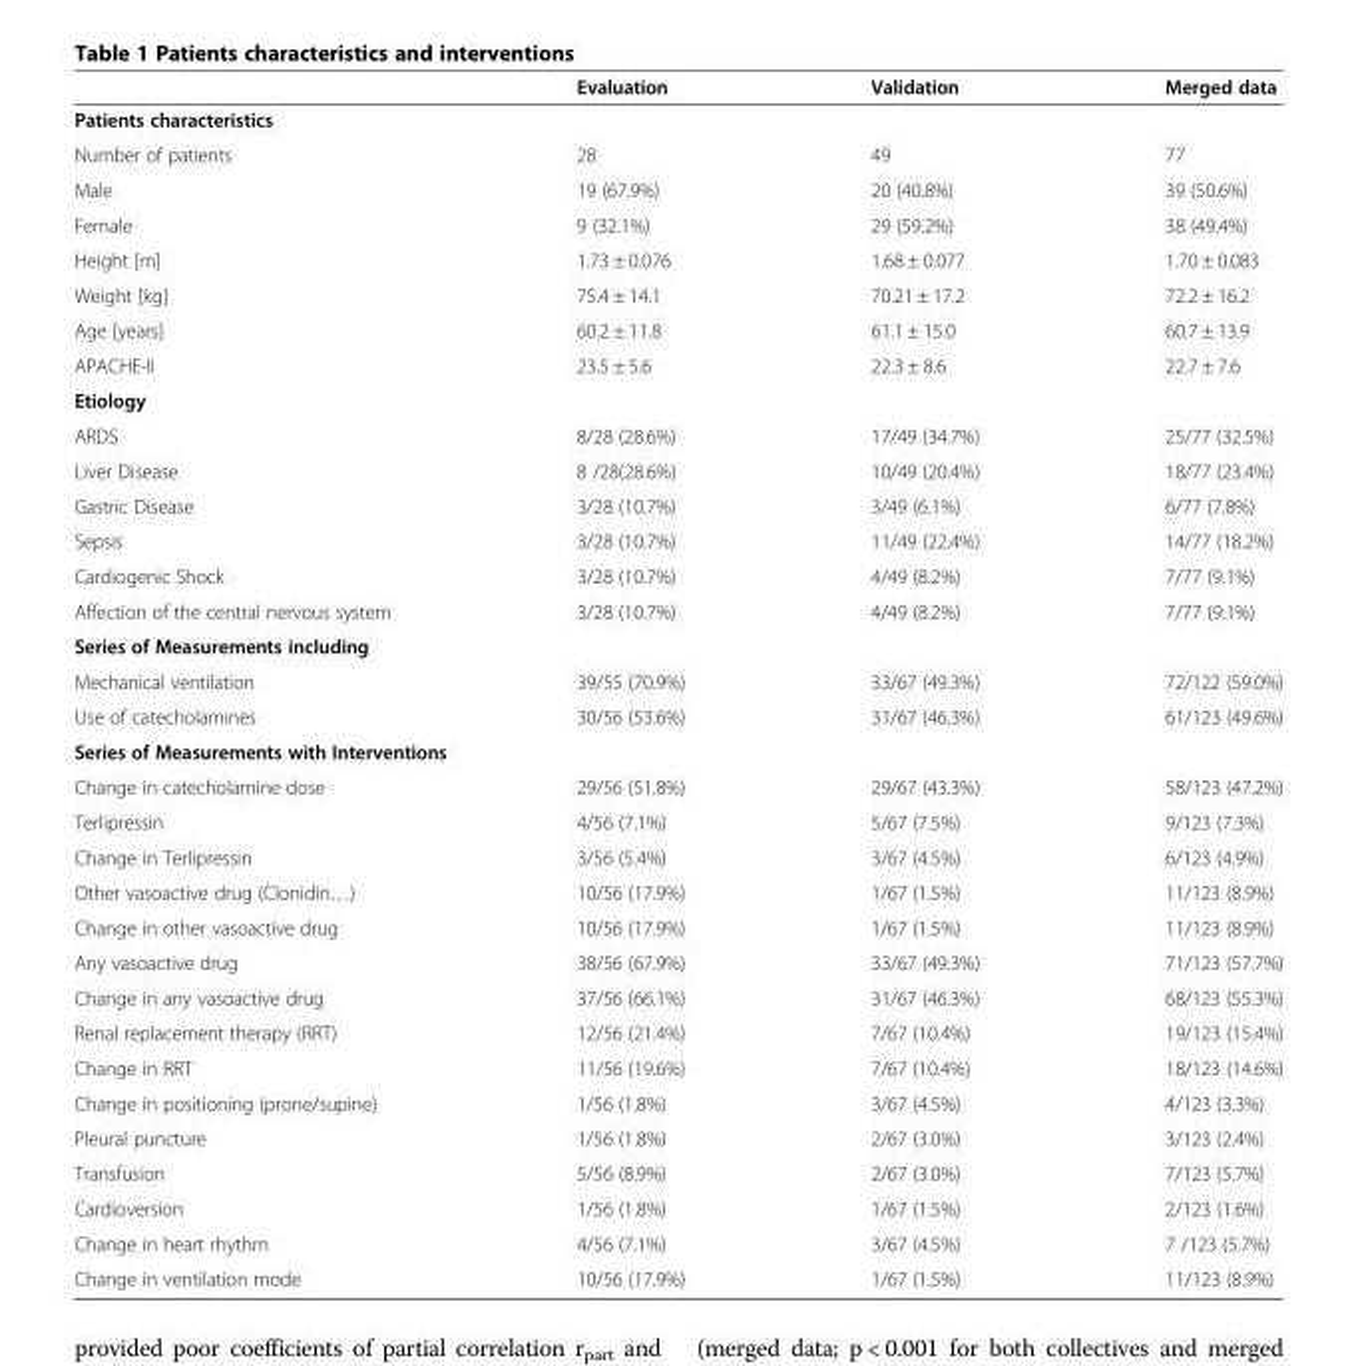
<table><thead><tr><td></td><td>Evaluation</td><td>Validation</td><td>Merged data</td></tr></thead><tbody><tr><td colspan="4">Patients characteristics</td></tr><tr><td>Number of patients</td><td>28</td><td>49</td><td>77</td></tr><tr><td>Male</td><td>19 (67.9%)</td><td>20 (40.8%)</td><td>39 (50.6%)</td></tr><tr><td>Female</td><td>9 (32.1%)</td><td>29 (59.2%)</td><td>38 (49.4%)</td></tr><tr><td>Height [m]</td><td>1.73 ± 0.076</td><td>1.68 ± 0.077</td><td>1.70 ± 0.083</td></tr><tr><td>Weight [kg]</td><td>75.4 ± 14.1</td><td>70.21 ± 17.2</td><td>72.2 ± 16.2</td></tr><tr><td>Age [years]</td><td>60.2 ± 11.8</td><td>61.1 ± 15.0</td><td>60.7 ± 13.9</td></tr><tr><td>APACHE-II</td><td>23.5 ± 5.6</td><td>22.3 ± 8.6</td><td>22.7 ± 7.6</td></tr><tr><td colspan="4">Etiology</td></tr><tr><td>ARDS</td><td>8/28 (28.6%)</td><td>17/49 (34.7%)</td><td>25/77 (32.5%)</td></tr><tr><td>Liver Disease</td><td>8 /28(28.6%)</td><td>10/49 (20.4%)</td><td>18/77 (23.4%)</td></tr><tr><td>Gastric Disease</td><td>3/28 (10.7%)</td><td>3/49 (6.1%)</td><td>6/77 (7.8%)</td></tr><tr><td>Sepsis</td><td>3/28 (10.7%)</td><td>11/49 (22.4%)</td><td>14/77 (18.2%)</td></tr><tr><td>Cardiogenic Shock</td><td>3/28 (10.7%)</td><td>4/49 (8.2%)</td><td>7/77 (9.1%)</td></tr><tr><td>Affection of the central nervous system</td><td>3/28 (10.7%)</td><td>4/49 (8.2%)</td><td>7/77 (9.1%)</td></tr><tr><td colspan="4">Series of Measurements including</td></tr><tr><td>Mechanical ventilation</td><td>39/55 (70.9%)</td><td>33/67 (49.3%)</td><td>72/122 (59.0%)</td></tr><tr><td>Use of catecholamines</td><td>30/56 (53.6%)</td><td>31/67 (46.3%)</td><td>61/123 (49.6%)</td></tr><tr><td colspan="4">Series of Measurements with Interventions</td></tr><tr><td>Change in catecholamine dose</td><td>29/56 (51.8%)</td><td>29/67 (43.3%)</td><td>58/123 (47.2%)</td></tr><tr><td>Terlipressin</td><td>4/56 (7.1%)</td><td>5/67 (7.5%)</td><td>9/123 (7.3%)</td></tr><tr><td>Change in Terlipressin</td><td>3/56 (5.4%)</td><td>3/67 (4.5%)</td><td>6/123 (4.9%)</td></tr><tr><td>Other vasoactive drug (Clonidin…)</td><td>10/56 (17.9%)</td><td>1/67 (1.5%)</td><td>11/123 (8.9%)</td></tr><tr><td>Change in other vasoactive drug</td><td>10/56 (17.9%)</td><td>1/67 (1.5%)</td><td>11/123 (8.9%)</td></tr><tr><td>Any vasoactive drug</td><td>38/56 (67.9%)</td><td>33/67 (49.3%)</td><td>71/123 (57.7%)</td></tr><tr><td>Change in any vasoactive drug</td><td>37/56 (66.1%)</td><td>31/67 (46.3%)</td><td>68/123 (55.3%)</td></tr><tr><td>Renal replacement therapy (RRT)</td><td>12/56 (21.4%)</td><td>7/67 (10.4%)</td><td>19/123 (15.4%)</td></tr><tr><td>Change in RRT</td><td>11/56 (19.6%)</td><td>7/67 (10.4%)</td><td>18/123 (14.6%)</td></tr><tr><td>Change in positioning (prone/supine)</td><td>1/56 (1.8%)</td><td>3/67 (4.5%)</td><td>4/123 (3.3%)</td></tr><tr><td>Pleural puncture</td><td>1/56 (1.8%)</td><td>2/67 (3.0%)</td><td>3/123 (2.4%)</td></tr><tr><td>Transfusion</td><td>5/56 (8.9%)</td><td>2/67 (3.0%)</td><td>7/123 (5.7%)</td></tr><tr><td>Cardioversion</td><td>1/56 (1.8%)</td><td>1/67 (1.5%)</td><td>2/123 (1.6%)</td></tr><tr><td>Change in heart rhythm</td><td>4/56 (7.1%)</td><td>3/67 (4.5%)</td><td>7 /123 (5.7%)</td></tr><tr><td>Change in ventilation mode</td><td>10/56 (17.9%)</td><td>1/67 (1.5%)</td><td>11/123 (8.9%)</td></tr></tbody></table>